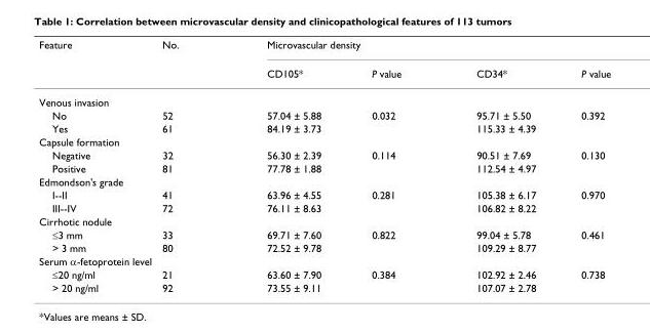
<table><thead><tr><td rowspan="2">Feature</td><td rowspan="2">No.</td><td colspan="4">Microvascular density</td></tr><tr><td>CD105*</td><td>P value</td><td>CD34*</td><td>P value</td></tr></thead><tbody><tr><td colspan="6">Venous invasion</td></tr><tr><td>No</td><td>52</td><td>57.04 ± 5.88</td><td>0.032</td><td>95.71 ± 5.50</td><td>0.392</td></tr><tr><td>Yes</td><td>61</td><td>84.19 ± 3.73</td><td></td><td>115.33 ± 4.39</td><td></td></tr><tr><td colspan="6">Capsule formation</td></tr><tr><td>Negative</td><td>32</td><td>56.30 ± 2.39</td><td>0.114</td><td>90.51 ± 7.69</td><td>0.130</td></tr><tr><td>Positive</td><td>81</td><td>77.78 ± 1.88</td><td></td><td>112.54 ± 4.97</td><td></td></tr><tr><td colspan="6">Edmondson&#x27;s grade</td></tr><tr><td>I--II</td><td>41</td><td>63.96 ± 4.55</td><td>0.281</td><td>105.38 ± 6.17</td><td>0.970</td></tr><tr><td>III--IV</td><td>72</td><td>76.11 ± 8.63</td><td></td><td>106.82 ± 8.22</td><td></td></tr><tr><td colspan="6">Cirrhotic nodule</td></tr><tr><td>≤3 mm</td><td>33</td><td>69.71 ± 7.60</td><td>0.822</td><td>99.04 ± 5.78</td><td>0.461</td></tr><tr><td>&gt; 3 mm</td><td>80</td><td>72.52 ± 9.78</td><td></td><td>109.29 ± 8.77</td><td></td></tr><tr><td colspan="6">Serum α-fetoprotein level</td></tr><tr><td>≤20 ng/ml</td><td>21</td><td>63.60 ± 7.90</td><td>0.384</td><td>102.92 ± 2.46</td><td>0.738</td></tr><tr><td>&gt; 20 ng/ml</td><td>92</td><td>73.55 ± 9.11</td><td></td><td>107.07 ± 2.78</td><td></td></tr></tbody></table>